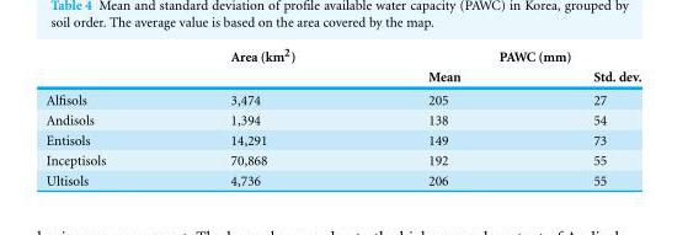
<table><thead><tr><td rowspan="2"></td><td rowspan="2">Area (km<sup>2</sup>)</td><td colspan="2">PAWC (mm)</td></tr><tr><td>Mean</td><td>Std. dev.</td></tr></thead><tbody><tr><td>Alfisols</td><td>3,474</td><td>205</td><td>27</td></tr><tr><td>Andisols</td><td>1,394</td><td>138</td><td>54</td></tr><tr><td>Entisols</td><td>14,291</td><td>149</td><td>73</td></tr><tr><td>Inceptisols</td><td>70,868</td><td>192</td><td>55</td></tr><tr><td>Ultisols</td><td>4,736</td><td>206</td><td>55</td></tr></tbody></table>